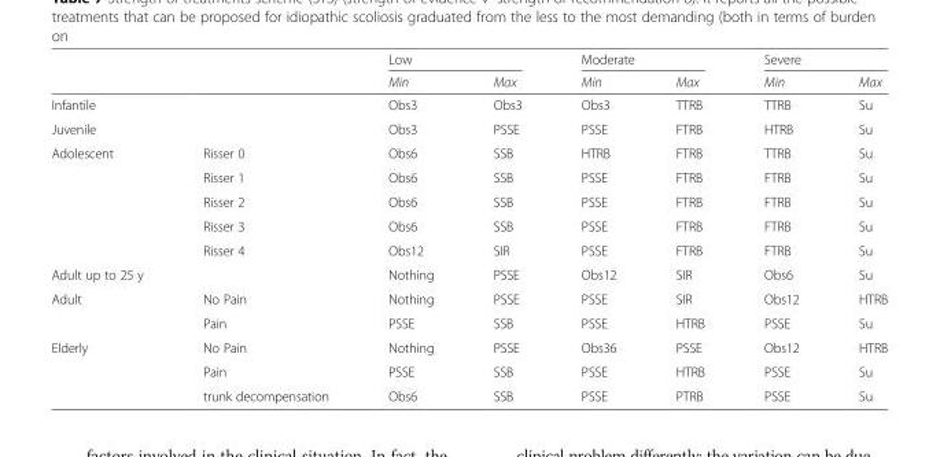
<table><thead><tr><td rowspan="2"></td><td rowspan="2"></td><td colspan="2">Low</td><td colspan="2">Moderate</td><td colspan="2">Severe</td></tr><tr><td>Min</td><td>Max</td><td>Min</td><td>Max</td><td>Min</td><td>Max</td></tr></thead><tbody><tr><td>Infantile</td><td></td><td>Obs3</td><td>Obs3</td><td>Obs3</td><td>TTRB</td><td>TTRB</td><td>Su</td></tr><tr><td>Juvenile</td><td></td><td>Obs3</td><td>PSSE</td><td>PSSE</td><td>FTRB</td><td>HTRB</td><td>Su</td></tr><tr><td rowspan="5">Adolescent</td><td>Risser 0</td><td>Obs6</td><td>SSB</td><td>HTRB</td><td>FTRB</td><td>TTRB</td><td>Su</td></tr><tr><td>Risser 1</td><td>Obs6</td><td>SSB</td><td>PSSE</td><td>FTRB</td><td>FTRB</td><td>Su</td></tr><tr><td>Risser 2</td><td>Obs6</td><td>SSB</td><td>PSSE</td><td>FTRB</td><td>FTRB</td><td>Su</td></tr><tr><td>Risser 3</td><td>Obs6</td><td>SSB</td><td>PSSE</td><td>FTRB</td><td>FTRB</td><td>Su</td></tr><tr><td>Risser 4</td><td>Obs12</td><td>SIR</td><td>PSSE</td><td>FTRB</td><td>FTRB</td><td>Su</td></tr><tr><td>Adult up to 25 y</td><td></td><td>Nothing</td><td>PSSE</td><td>Obs12</td><td>SIR</td><td>Obs6</td><td>Su</td></tr><tr><td rowspan="2">Adult</td><td>No Pain</td><td>Nothing</td><td>PSSE</td><td>PSSE</td><td>SIR</td><td>Obs12</td><td>HTRB</td></tr><tr><td>Pain</td><td>PSSE</td><td>SSB</td><td>PSSE</td><td>HTRB</td><td>PSSE</td><td>Su</td></tr><tr><td rowspan="3">Elderly</td><td>No Pain</td><td>Nothing</td><td>PSSE</td><td>Obs36</td><td>PSSE</td><td>Obs12</td><td>HTRB</td></tr><tr><td>Pain</td><td>PSSE</td><td>SSB</td><td>PSSE</td><td>HTRB</td><td>PSSE</td><td>Su</td></tr><tr><td>trunk decompensation</td><td>Obs6</td><td>SSB</td><td>PSSE</td><td>PTRB</td><td>PSSE</td><td>Su</td></tr></tbody></table>